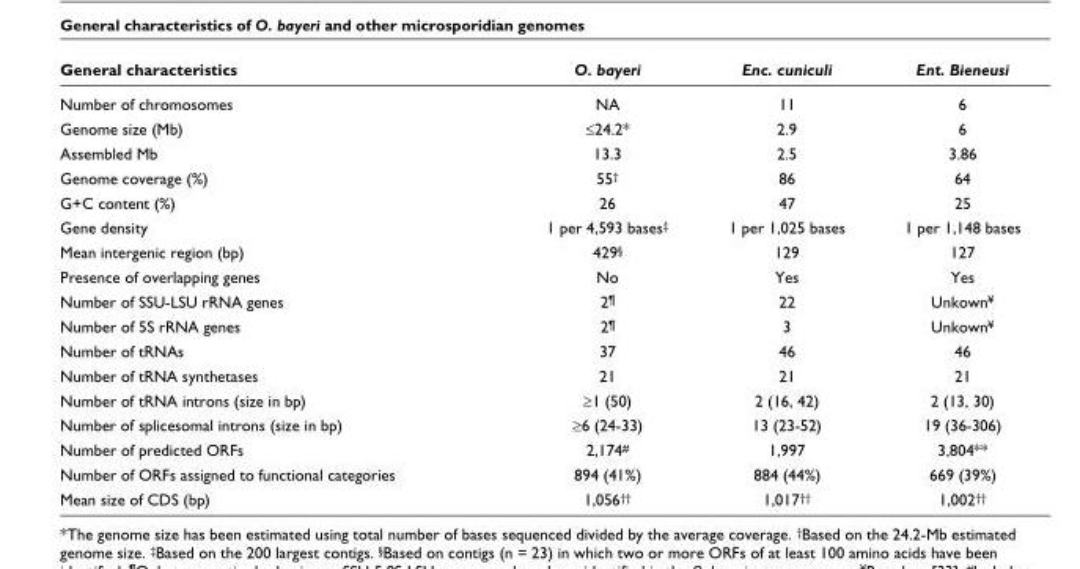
<table><thead><tr><td>General characteristics</td><td>O. bayeri</td><td>Enc. cuniculi</td><td>Ent. Bieneusi</td></tr></thead><tbody><tr><td>Number of chromosomes</td><td>NA</td><td>11</td><td>6</td></tr><tr><td>Genome size (Mb)</td><td>≤24.2*</td><td>2.9</td><td>6</td></tr><tr><td>Assembled Mb</td><td>13.3</td><td>2.5</td><td>3.86</td></tr><tr><td>Genome coverage (%)</td><td>55<sup>†</sup></td><td>86</td><td>64</td></tr><tr><td>G+C content (%)</td><td>26</td><td>47</td><td>25</td></tr><tr><td>Gene density</td><td>1 per 4,593 bases<sup>‡</sup></td><td>1 per 1,025 bases</td><td>1 per 1,148 bases</td></tr><tr><td>Mean intergenic region (bp)</td><td>429<sup>§</sup></td><td>129</td><td>127</td></tr><tr><td>Presence of overlapping genes</td><td>No</td><td>Yes</td><td>Yes</td></tr><tr><td>Number of SSU-LSU rRNA genes</td><td>2<sup>¶</sup></td><td>22</td><td>Unkown<sup>¥</sup></td></tr><tr><td>Number of 5S rRNA genes</td><td>2<sup>¶</sup></td><td>3</td><td>Unkown<sup>¥</sup></td></tr><tr><td>Number of tRNAs</td><td>37</td><td>46</td><td>46</td></tr><tr><td>Number of tRNA synthetases</td><td>21</td><td>21</td><td>21</td></tr><tr><td>Number of tRNA introns (size in bp)</td><td>≥1 (50)</td><td>2 (16, 42)</td><td>2 (13, 30)</td></tr><tr><td>Number of splicesomal introns (size in bp)</td><td>≥6 (24-33)</td><td>13 (23-52)</td><td>19 (36-306)</td></tr><tr><td>Number of predicted ORFs</td><td>2,174<sup>#</sup></td><td>1,997</td><td>3,804**</td></tr><tr><td>Number of ORFs assigned to functional categories</td><td>894 (41%)</td><td>884 (44%)</td><td>669 (39%)</td></tr><tr><td>Mean size of CDS (bp)</td><td>1,056<sup>††</sup></td><td>1,017<sup>††</sup></td><td>1,002<sup>††</sup></td></tr></tbody></table>